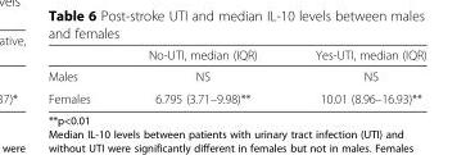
<table><thead><tr><td></td><td>No-UTI, median (IQR)</td><td>Yes-UTI, median (IQR)</td></tr></thead><tbody><tr><td>Males</td><td>NS</td><td>NS</td></tr><tr><td>Females</td><td>6.795 (3.71–9.98)**</td><td>10.01 (8.96–16.93)**</td></tr></tbody></table>